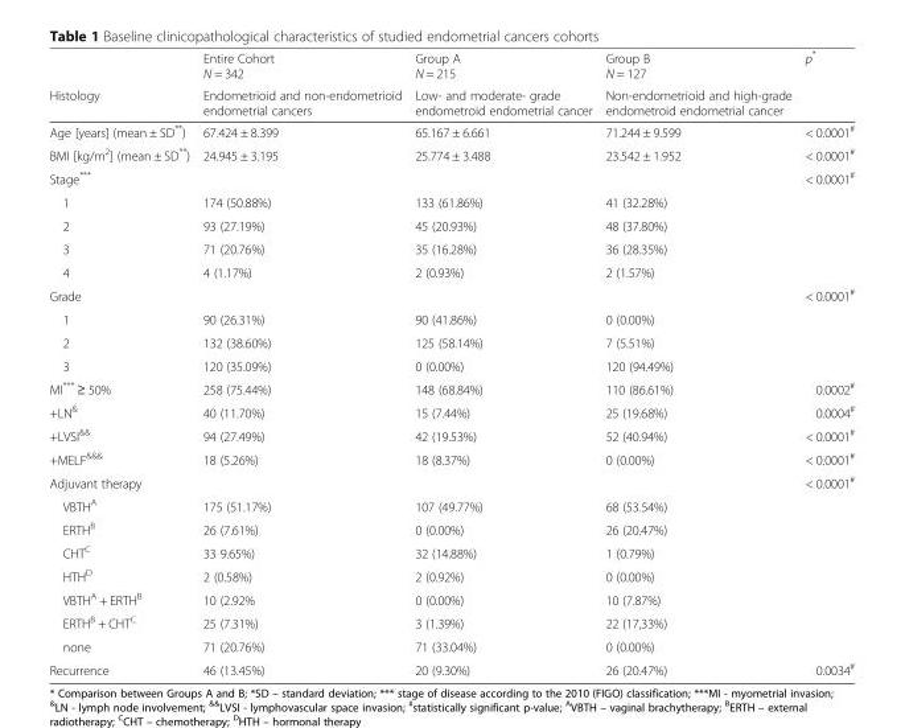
<table><thead><tr><td rowspan="2">Histology</td><td rowspan="2">Entire Cohort N = 342 Endometrioid and non-endometrioid endometrial cancers</td><td rowspan="2">Group A N = 215 Low- and moderate- grade endometroid endometrial cancer</td><td rowspan="2">Group B N = 127 Non-endometrioid and high-grade endometroid endometrial cancer</td><td rowspan="2">p*</td></tr><tr></tr></thead><tbody><tr><td>Age [years] (mean ± SD**)</td><td>67.424 ± 8.399</td><td>65.167 ± 6.661</td><td>71.244 ± 9.599</td><td>&lt; 0.0001<sup>#</sup></td></tr><tr><td>BMI [kg/m<sup>2</sup>] (mean ± SD**)</td><td>24.945 ± 3.195</td><td>25.774 ± 3.488</td><td>23.542 ± 1.952</td><td>&lt; 0.0001<sup>#</sup></td></tr><tr><td colspan="4">Stage***</td><td rowspan="5">&lt; 0.0001<sup>#</sup></td></tr><tr><td>1</td><td>174 (50.88%)</td><td>133 (61.86%)</td><td>41 (32.28%)</td></tr><tr><td>2</td><td>93 (27.19%)</td><td>45 (20.93%)</td><td>48 (37.80%)</td></tr><tr><td>3</td><td>71 (20.76%)</td><td>35 (16.28%)</td><td>36 (28.35%)</td></tr><tr><td>4</td><td>4 (1.17%)</td><td>2 (0.93%)</td><td>2 (1.57%)</td></tr><tr><td colspan="4">Grade</td><td rowspan="4">&lt; 0.0001<sup>#</sup></td></tr><tr><td>1</td><td>90 (26.31%)</td><td>90 (41.86%)</td><td>0 (0.00%)</td></tr><tr><td>2</td><td>132 (38.60%)</td><td>125 (58.14%)</td><td>7 (5.51%)</td></tr><tr><td>3</td><td>120 (35.09%)</td><td>0 (0.00%)</td><td>120 (94.49%)</td></tr><tr><td>MI*** ≥ 50%</td><td>258 (75.44%)</td><td>148 (68.84%)</td><td>110 (86.61%)</td><td>0.0002<sup>#</sup></td></tr><tr><td>+LN<sup>&amp;</sup></td><td>40 (11.70%)</td><td>15 (7.44%)</td><td>25 (19.68%)</td><td>0.0004<sup>#</sup></td></tr><tr><td>+LVSI<sup>&amp;&amp;</sup></td><td>94 (27.49%)</td><td>42 (19.53%)</td><td>52 (40.94%)</td><td>&lt; 0.0001<sup>#</sup></td></tr><tr><td>+MELF<sup>&amp;&amp;&amp;</sup></td><td>18 (5.26%)</td><td>18 (8.37%)</td><td>0 (0.00%)</td><td>&lt; 0.0001<sup>#</sup></td></tr><tr><td colspan="4">Adjuvant therapy</td><td rowspan="8">&lt; 0.0001<sup>#</sup></td></tr><tr><td>VBTH<sup>A</sup></td><td>175 (51.17%)</td><td>107 (49.77%)</td><td>68 (53.54%)</td></tr><tr><td>ERTH<sup>B</sup></td><td>26 (7.61%)</td><td>0 (0.00%)</td><td>26 (20.47%)</td></tr><tr><td>CHT<sup>C</sup></td><td>33 9.65%)</td><td>32 (14.88%)</td><td>1 (0.79%)</td></tr><tr><td>HTH<sup>D</sup></td><td>2 (0.58%)</td><td>2 (0.92%)</td><td>0 (0.00%)</td></tr><tr><td>VBTH<sup>A</sup> + ERTH<sup>B</sup></td><td>10 (2.92%</td><td>0 (0.00%)</td><td>10 (7.87%)</td></tr><tr><td>ERTH<sup>B</sup> + CHT<sup>C</sup></td><td>25 (7.31%)</td><td>3 (1.39%)</td><td>22 (17,33%)</td></tr><tr><td>none</td><td>71 (20.76%)</td><td>71 (33.04%)</td><td>0 (0.00%)</td></tr><tr><td>Recurrence</td><td>46 (13.45%)</td><td>20 (9.30%)</td><td>26 (20.47%)</td><td>0.0034<sup>#</sup></td></tr></tbody></table>